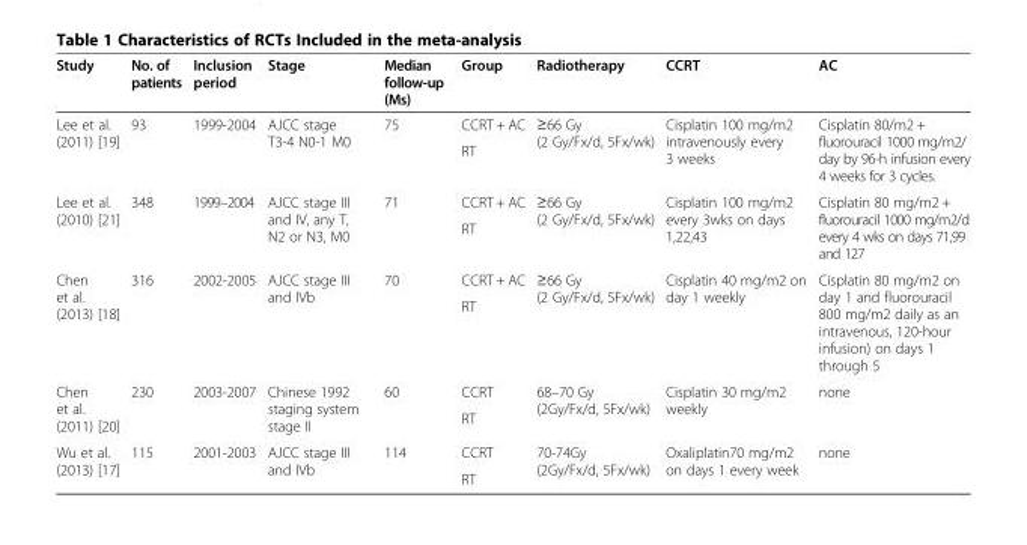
<table><thead><tr><td>Study</td><td>No. of patients</td><td>Inclusion period</td><td>Stage</td><td>Median follow-up (Ms)</td><td>Group</td><td>Radiotherapy</td><td>CCRT</td><td>AC</td></tr></thead><tbody><tr><td rowspan="2">Lee et al. (2011) [19]</td><td rowspan="2">93</td><td rowspan="2">1999-2004</td><td rowspan="2">AJCC stage T3-4 N0-1 M0</td><td rowspan="2">75</td><td>CCRT + AC</td><td rowspan="2">≥66 Gy (2 Gy/Fx/d, 5Fx/wk)</td><td rowspan="2">Cisplatin 100 mg/m2 intravenously every 3 weeks</td><td rowspan="2">Cisplatin 80/m2 + fluorouracil 1000 mg/m2/ day by 96-h infusion every 4 weeks for 3 cycles.</td></tr><tr><td>RT</td></tr><tr><td rowspan="2">Lee et al. (2010) [21]</td><td rowspan="2">348</td><td rowspan="2">1999–2004</td><td rowspan="2">AJCC stage III and IV, any T, N2 or N3, M0</td><td rowspan="2">71</td><td>CCRT + AC</td><td rowspan="2">≥66 Gy (2 Gy/Fx/d, 5Fx/wk)</td><td rowspan="2">Cisplatin 100 mg/m2 every 3wks on days 1,22,43</td><td rowspan="2">Cisplatin 80 mg/m2 + fluorouracil 1000 mg/m2/d every 4 wks on days 71,99 and 127</td></tr><tr><td>RT</td></tr><tr><td rowspan="2">Chen et al. (2013) [18]</td><td rowspan="2">316</td><td rowspan="2">2002-2005</td><td rowspan="2">AJCC stage III and IVb</td><td rowspan="2">70</td><td>CCRT + AC</td><td rowspan="2">≥66 Gy (2 Gy/Fx/d, 5Fx/wk)</td><td rowspan="2">Cisplatin 40 mg/m2 on day 1 weekly</td><td rowspan="2">Cisplatin 80 mg/m2 on day 1 and fluorouracil 800 mg/m2 daily as an intravenous, 120-hour infusion) on days 1 through 5</td></tr><tr><td>RT</td></tr><tr><td rowspan="2">Chen et al. (2011) [20]</td><td rowspan="2">230</td><td rowspan="2">2003-2007</td><td rowspan="2">Chinese 1992 staging system stage II</td><td rowspan="2">60</td><td>CCRT</td><td rowspan="2">68–70 Gy (2Gy/Fx/d, 5Fx/wk)</td><td rowspan="2">Cisplatin 30 mg/m2 weekly</td><td rowspan="2">none</td></tr><tr><td>RT</td></tr><tr><td rowspan="2">Wu et al. (2013) [17]</td><td rowspan="2">115</td><td rowspan="2">2001-2003</td><td rowspan="2">AJCC stage III and IVb</td><td rowspan="2">114</td><td>CCRT</td><td rowspan="2">70-74Gy (2Gy/Fx/d, 5Fx/wk)</td><td rowspan="2">Oxaliplatin70 mg/m2 on days 1 every week</td><td rowspan="2">none</td></tr><tr><td>RT</td></tr></tbody></table>